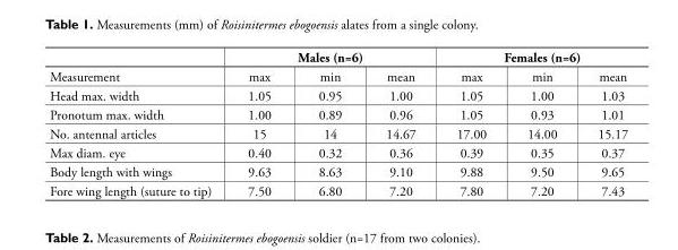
<table><thead><tr><td rowspan="2">Measurement</td><td colspan="3">Males (n=6)</td><td colspan="3">Females (n=6)</td></tr><tr><td>max</td><td>min</td><td>mean</td><td>max</td><td>min</td><td>mean</td></tr></thead><tbody><tr><td>Head max. width</td><td>1.05</td><td>0.95</td><td>1.00</td><td>1.05</td><td>1.00</td><td>1.03</td></tr><tr><td>Pronotum max. width</td><td>1.00</td><td>0.89</td><td>0.96</td><td>1.05</td><td>0.93</td><td>1.01</td></tr><tr><td>No. antennal articles</td><td>15</td><td>14</td><td>14.67</td><td>17.00</td><td>14.00</td><td>15.17</td></tr><tr><td>Max diam. eye</td><td>0.40</td><td>0.32</td><td>0.36</td><td>0.39</td><td>0.35</td><td>0.37</td></tr><tr><td>Body length with wings</td><td>9.63</td><td>8.63</td><td>9.10</td><td>9.88</td><td>9.50</td><td>9.65</td></tr><tr><td>Fore wing length (suture to tip)</td><td>7.50</td><td>6.80</td><td>7.20</td><td>7.80</td><td>7.20</td><td>7.43</td></tr></tbody></table>